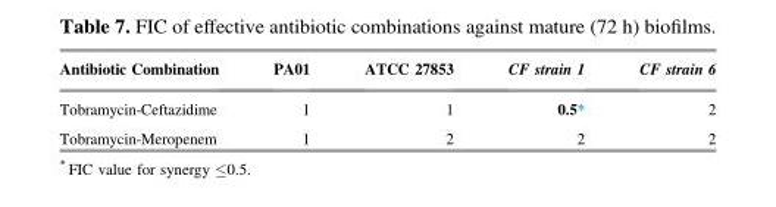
<table><thead><tr><td>Antibiotic Combination</td><td>PA01</td><td>ATCC 27853</td><td>CF strain 1</td><td>CF strain 6</td></tr></thead><tbody><tr><td>Tobramycin-Ceftazidime</td><td>1</td><td>1</td><td>0.5*</td><td>2</td></tr><tr><td>Tobramycin-Meropenem</td><td>1</td><td>2</td><td>2</td><td>2</td></tr></tbody></table>